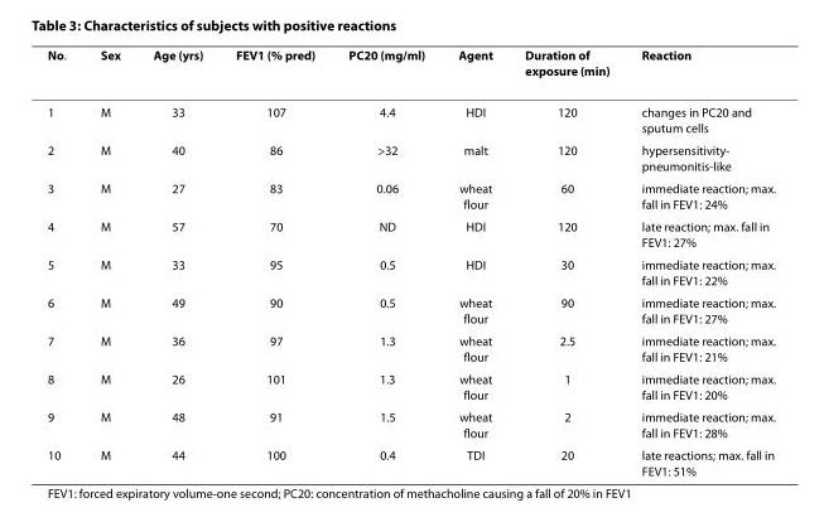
<table><thead><tr><td>No.</td><td>Sex</td><td>Age (yrs)</td><td>FEV1 (% pred)</td><td>PC20 (mg/ml)</td><td>Agent</td><td>Duration of exposure (min)</td><td>Reaction</td></tr></thead><tbody><tr><td>1</td><td>M</td><td>33</td><td>107</td><td>4.4</td><td>HDI</td><td>120</td><td>changes in PC20 and sputum cells</td></tr><tr><td>2</td><td>M</td><td>40</td><td>86</td><td>&gt;32</td><td>malt</td><td>120</td><td>hypersensitivity- pneumonitis-like</td></tr><tr><td>3</td><td>M</td><td>27</td><td>83</td><td>0.06</td><td>wheat flour</td><td>60</td><td>immediate reaction; max. fall in FEV1: 24%</td></tr><tr><td>4</td><td>M</td><td>57</td><td>70</td><td>ND</td><td>HDI</td><td>120</td><td>late reaction; max. fall in FEV1: 27%</td></tr><tr><td>5</td><td>M</td><td>33</td><td>95</td><td>0.5</td><td>HDI</td><td>30</td><td>immediate reaction; max. fall in FEV1: 22%</td></tr><tr><td>6</td><td>M</td><td>49</td><td>90</td><td>0.5</td><td>wheat flour</td><td>90</td><td>immediate reaction; max. fall in FEV1: 27%</td></tr><tr><td>7</td><td>M</td><td>36</td><td>97</td><td>1.3</td><td>wheat flour</td><td>2.5</td><td>immediate reaction; max. fall in FEV1: 21%</td></tr><tr><td>8</td><td>M</td><td>26</td><td>101</td><td>1.3</td><td>wheat flour</td><td>1</td><td>immediate reaction; max. fall in FEV1: 20%</td></tr><tr><td>9</td><td>M</td><td>48</td><td>91</td><td>1.5</td><td>wheat flour</td><td>2</td><td>immediate reaction; max. fall in FEV1: 28%</td></tr><tr><td>10</td><td>M</td><td>44</td><td>100</td><td>0.4</td><td>TDI</td><td>20</td><td>late reactions; max. fall in FEV1: 51%</td></tr></tbody></table>